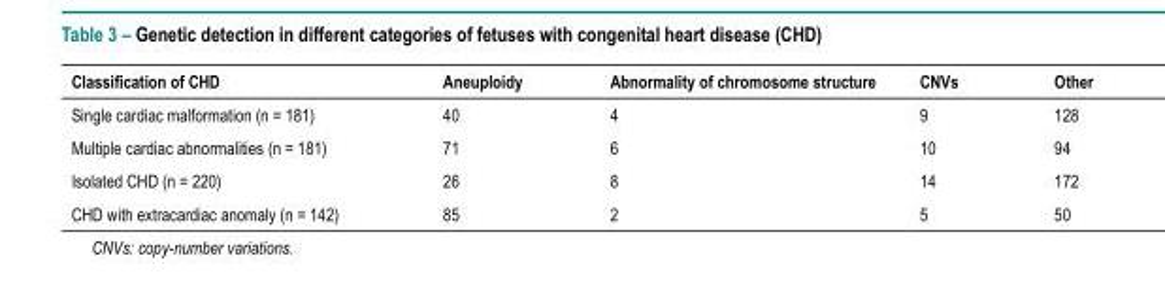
<table><thead><tr><td>Classification of CHD</td><td>Aneuploidy</td><td>Abnormality of chromosome structure</td><td>CNVs</td><td>Other</td></tr></thead><tbody><tr><td>Single cardiac malformation (n = 181)</td><td>40</td><td>4</td><td>9</td><td>128</td></tr><tr><td>Multiple cardiac abnormalities (n = 181)</td><td>71</td><td>6</td><td>10</td><td>94</td></tr><tr><td>Isolated CHD (n = 220)</td><td>26</td><td>8</td><td>14</td><td>172</td></tr><tr><td>CHD with extracardiac anomaly (n = 142)</td><td>85</td><td>2</td><td>5</td><td>50</td></tr></tbody></table>